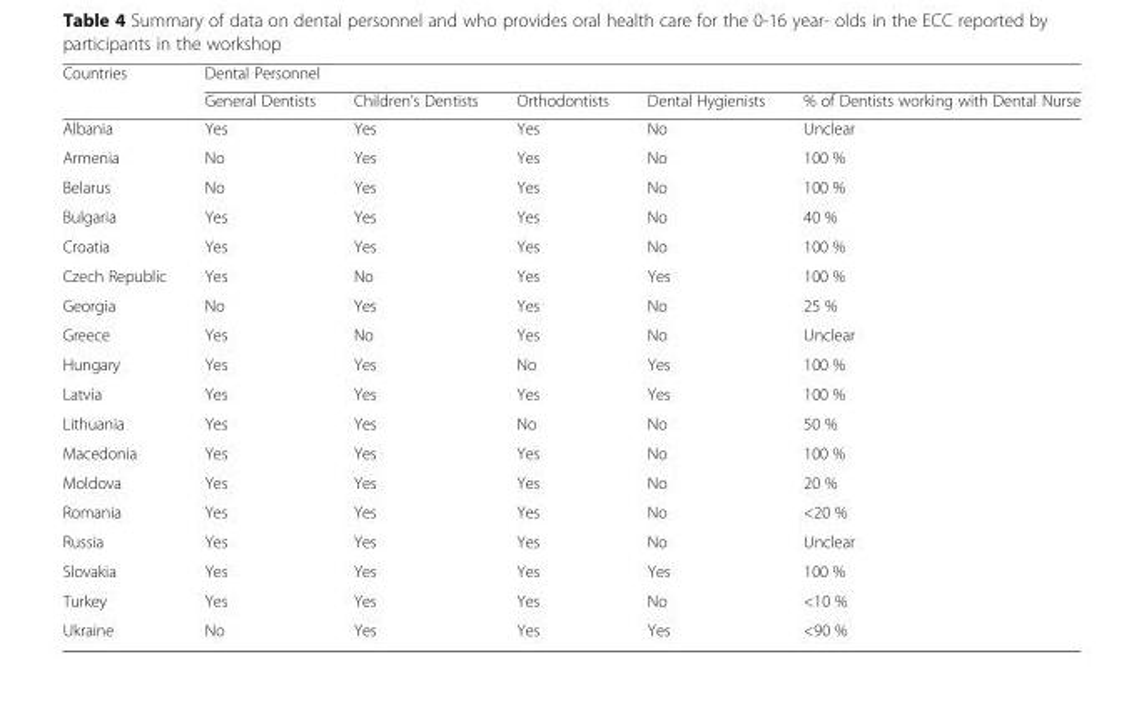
<table><thead><tr><td rowspan="2">Countries</td><td colspan="5">Dental Personnel</td></tr><tr><td>General Dentists</td><td>Children’s Dentists</td><td>Orthodontists</td><td>Dental Hygienists</td><td>% of Dentists working with Dental Nurse</td></tr></thead><tbody><tr><td>Albania</td><td>Yes</td><td>Yes</td><td>Yes</td><td>No</td><td>Unclear</td></tr><tr><td>Armenia</td><td>No</td><td>Yes</td><td>Yes</td><td>No</td><td>100 %</td></tr><tr><td>Belarus</td><td>No</td><td>Yes</td><td>Yes</td><td>No</td><td>100 %</td></tr><tr><td>Bulgaria</td><td>Yes</td><td>Yes</td><td>Yes</td><td>No</td><td>40 %</td></tr><tr><td>Croatia</td><td>Yes</td><td>Yes</td><td>Yes</td><td>No</td><td>100 %</td></tr><tr><td>Czech Republic</td><td>Yes</td><td>No</td><td>Yes</td><td>Yes</td><td>100 %</td></tr><tr><td>Georgia</td><td>No</td><td>Yes</td><td>Yes</td><td>No</td><td>25 %</td></tr><tr><td>Greece</td><td>Yes</td><td>No</td><td>Yes</td><td>No</td><td>Unclear</td></tr><tr><td>Hungary</td><td>Yes</td><td>Yes</td><td>No</td><td>Yes</td><td>100 %</td></tr><tr><td>Latvia</td><td>Yes</td><td>Yes</td><td>Yes</td><td>Yes</td><td>100 %</td></tr><tr><td>Lithuania</td><td>Yes</td><td>Yes</td><td>No</td><td>No</td><td>50 %</td></tr><tr><td>Macedonia</td><td>Yes</td><td>Yes</td><td>Yes</td><td>No</td><td>100 %</td></tr><tr><td>Moldova</td><td>Yes</td><td>Yes</td><td>Yes</td><td>No</td><td>20 %</td></tr><tr><td>Romania</td><td>Yes</td><td>Yes</td><td>Yes</td><td>No</td><td>&lt;20 %</td></tr><tr><td>Russia</td><td>Yes</td><td>Yes</td><td>Yes</td><td>No</td><td>Unclear</td></tr><tr><td>Slovakia</td><td>Yes</td><td>Yes</td><td>Yes</td><td>Yes</td><td>100 %</td></tr><tr><td>Turkey</td><td>Yes</td><td>Yes</td><td>Yes</td><td>No</td><td>&lt;10 %</td></tr><tr><td>Ukraine</td><td>No</td><td>Yes</td><td>Yes</td><td>Yes</td><td>&lt;90 %</td></tr></tbody></table>